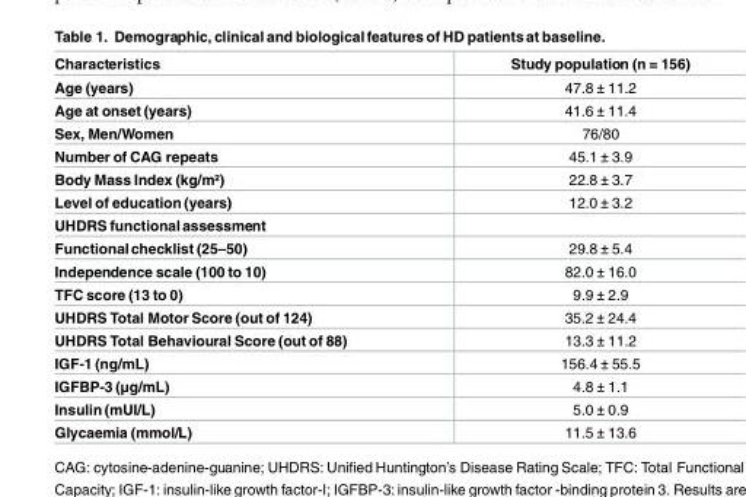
<table><thead><tr><td>Characteristics</td><td>Study population (n = 156)</td></tr></thead><tbody><tr><td>Age (years)</td><td>47.8 ± 11.2</td></tr><tr><td>Age at onset (years)</td><td>41.6 ± 11.4</td></tr><tr><td>Sex, Men/Women</td><td>76/80</td></tr><tr><td>Number of CAG repeats</td><td>45.1 ± 3.9</td></tr><tr><td>Body Mass Index (kg/m²)</td><td>22.8 ± 3.7</td></tr><tr><td>Level of education (years)</td><td>12.0 ± 3.2</td></tr><tr><td colspan="2">UHDRS functionalassessment</td></tr><tr><td>Functionalchecklist (25–50)</td><td>29.8 ± 5.4</td></tr><tr><td>Independence scale (100 to 10)</td><td>82.0 ± 16.0</td></tr><tr><td>TFC score (13 to 0)</td><td>9.9 ± 2.9</td></tr><tr><td>UHDRS Total Motor Score (out of 124)</td><td>35.2 ± 24.4</td></tr><tr><td>UHDRS Total Behavioural Score (out of 88)</td><td>13.3 ± 11.2</td></tr><tr><td>IGF-1 (ng/mL)</td><td>156.4 ± 55.5</td></tr><tr><td>IGFBP-3 (μg/mL)</td><td>4.8 ± 1.1</td></tr><tr><td>Insulin (mUI/L)</td><td>5.0 ± 0.9</td></tr><tr><td>Glycaemia (mmol/L)</td><td>11.5 ± 13.6</td></tr></tbody></table>